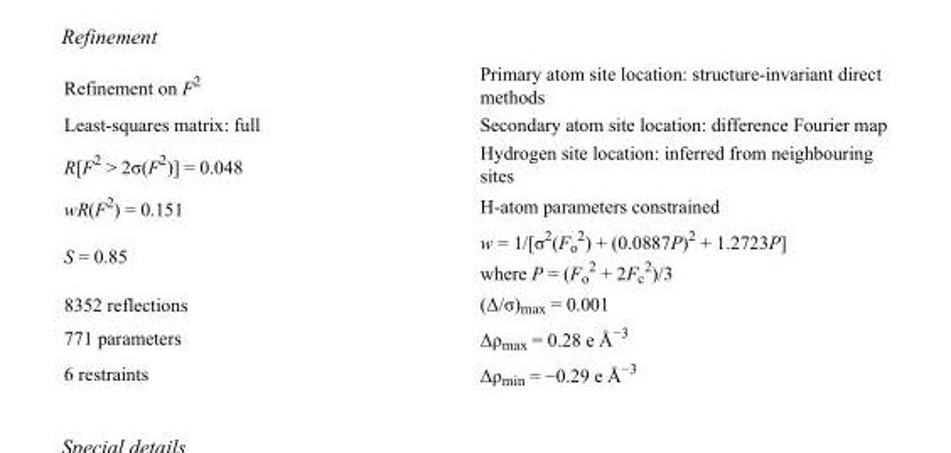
<table><tbody><tr><td>Refinement on F<sup>2</sup></td><td>Primary atom site location: structure-invariant direct methods</td></tr><tr><td>Least-squares matrix: full</td><td>Secondary atom site location: difference Fourier map</td></tr><tr><td>R[F<sup>2</sup> &gt; 2σ(F<sup>2</sup>)] = 0.048</td><td>Hydrogen site location: inferred from neighbouring sites</td></tr><tr><td>wR(F<sup>2</sup>) = 0.151</td><td>H-atom parameters constrained</td></tr><tr><td>S = 0.85</td><td>w = 1/[σ<sup>2</sup>(F<sub>o</sub> <sup>2</sup>) + (0.0887P)<sup>2</sup> + 1.2723P] where P = (F<sub>o</sub> <sup>2</sup> + 2F<sub>c</sub> <sup>2</sup>)/3</td></tr><tr><td>8352 reflections</td><td>(Δ/σ)<sub>max</sub> = 0.001</td></tr><tr><td>771 parameters</td><td>Δρ<sub>max</sub> = 0.28 e Å<sup>−3</sup></td></tr><tr><td>6 restraints</td><td>Δρ<sub>min</sub> = −0.29 e Å<sup>−3</sup></td></tr></tbody></table>